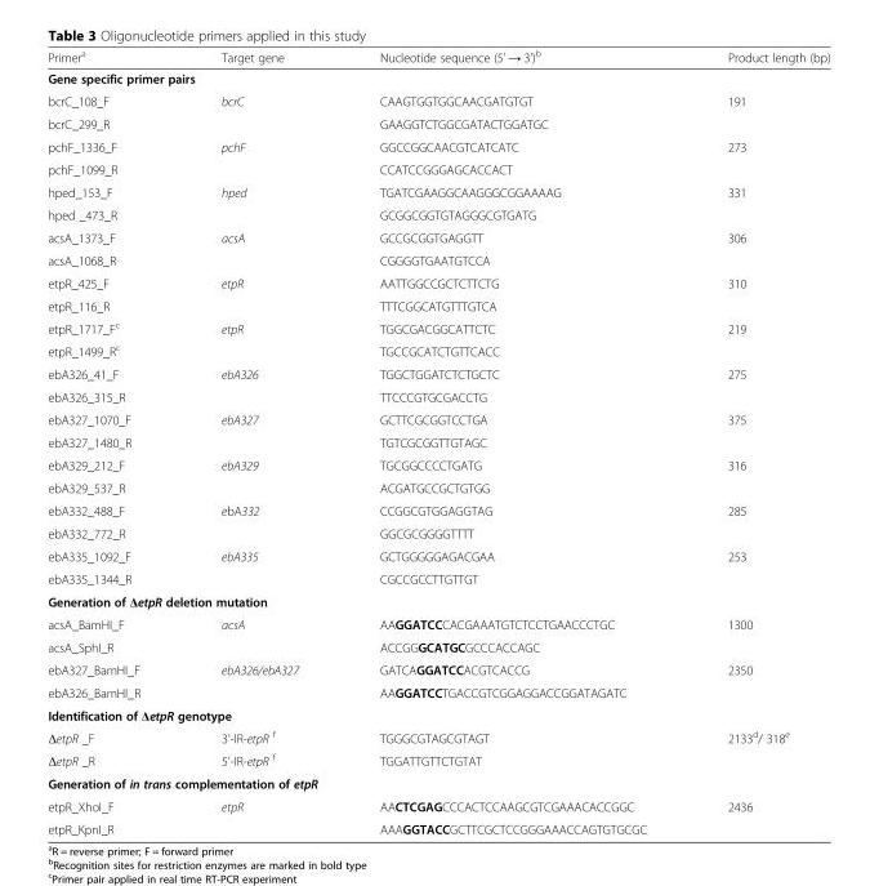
<table><thead><tr><td>Primer<sup>a</sup></td><td>Target gene</td><td>Nucleotide sequence (5&#x27; → 3&#x27;)<sup>b</sup></td><td>Product length (bp)</td></tr></thead><tbody><tr><td colspan="4">Gene specific primer pairs</td></tr><tr><td>bcrC_108_F</td><td>bcrC</td><td>CAAGTGGTGGCAACGATGTGT</td><td>191</td></tr><tr><td>bcrC_299_R</td><td></td><td>GAAGGTCTGGCGATACTGGATGC</td><td></td></tr><tr><td>pchF_1336_F</td><td>pchF</td><td>GGCCGGCAACGTCATCATC</td><td>273</td></tr><tr><td>pchF_1099_R</td><td></td><td>CCATCCGGGAGCACCACT</td><td></td></tr><tr><td>hped_153_F</td><td>hped</td><td>TGATCGAAGGCAAGGGCGGAAAAG</td><td>331</td></tr><tr><td>hped _473_R</td><td></td><td>GCGGCGGTGTAGGGCGTGATG</td><td></td></tr><tr><td>acsA_1373_F</td><td>acsA</td><td>GCCGCGGTGAGGTT</td><td>306</td></tr><tr><td>acsA_1068_R</td><td></td><td>CGGGGTGAATGTCCA</td><td></td></tr><tr><td>etpR_425_F</td><td>etpR</td><td>AATTGGCCGCTCTTCTG</td><td>310</td></tr><tr><td>etpR_116_R</td><td></td><td>TTTCGGCATGTTTGTCA</td><td></td></tr><tr><td>etpR_1717_F<sup>c</sup></td><td>etpR</td><td>TGGCGACGGCATTCTC</td><td>219</td></tr><tr><td>etpR_1499_R<sup>c</sup></td><td></td><td>TGCCGCATCTGTTCACC</td><td></td></tr><tr><td>ebA326_41_F</td><td>ebA326</td><td>TGGCTGGATCTCTGCTC</td><td>275</td></tr><tr><td>ebA326_315_R</td><td></td><td>TTCCCGTGCGACCTG</td><td></td></tr><tr><td>ebA327_1070_F</td><td>ebA327</td><td>GCTTCGCGGTCCTGA</td><td>375</td></tr><tr><td>ebA327_1480_R</td><td></td><td>TGTCGCGGTTGTAGC</td><td></td></tr><tr><td>ebA329_212_F</td><td>ebA329</td><td>TGCGGCCCCTGATG</td><td>316</td></tr><tr><td>ebA329_537_R</td><td></td><td>ACGATGCCGCTGTGG</td><td></td></tr><tr><td>ebA332_488_F</td><td>ebA332</td><td>CCGGCGTGGAGGTAG</td><td>285</td></tr><tr><td>ebA332_772_R</td><td></td><td>GGCGCGGGGTTTT</td><td></td></tr><tr><td>ebA335_1092_F</td><td>ebA335</td><td>GCTGGGGGAGACGAA</td><td>253</td></tr><tr><td>ebA335_1344_R</td><td></td><td>CGCCGCCTTGTTGT</td><td></td></tr><tr><td colspan="4">Generation of ΔetpR deletion mutation</td></tr><tr><td>acsA_BamHI_F</td><td>acsA</td><td>AAGGATCCCACGAAATGTCTCCTGAACCCTGC</td><td>1300</td></tr><tr><td>acsA_SphI_R</td><td></td><td>ACCGGGCATGCGCCCACCAGC</td><td></td></tr><tr><td>ebA327_BamHI_F</td><td>ebA326/ebA327</td><td>GATCAGGATCCACGTCACCG</td><td>2350</td></tr><tr><td>ebA326_BamHI_R</td><td></td><td>AAGGATCCTGACCGTCGGAGGACCGGATAGATC</td><td></td></tr><tr><td colspan="4">Identification of ΔetpR genotype</td></tr><tr><td>ΔetpR _F</td><td>3&#x27;-IR-etpR <sup>f</sup></td><td>TGGGCGTAGCGTAGT</td><td>2133<sup>d</sup>/ 318<sup>e</sup></td></tr><tr><td>ΔetpR _R</td><td>5&#x27;-IR-etpR <sup>f</sup></td><td>TGGATTGTTCTGTAT</td><td></td></tr><tr><td colspan="4">Generation of in trans complementation of etpR</td></tr><tr><td>etpR_XhoI_F</td><td>etpR</td><td>AACTCGAGCCCACTCCAAGCGTCGAAACACCGGC</td><td>2436</td></tr><tr><td>etpR_KpnI_R</td><td></td><td>AAAGGTACCGCTTCGCTCCGGGAAACCAGTGTGCGC</td><td></td></tr></tbody></table>